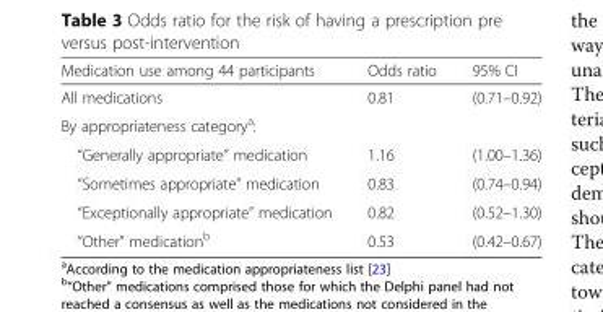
<table><thead><tr><td>Medication use among 44 participants</td><td>Odds ratio</td><td>95% CI</td></tr></thead><tbody><tr><td>All medications</td><td>0.81</td><td>(0.71–0.92)</td></tr><tr><td colspan="3">By appropriateness category<sup>a</sup>:</td></tr><tr><td>“Generally appropriate” medication</td><td>1.16</td><td>(1.00–1.36)</td></tr><tr><td>“Sometimes appropriate” medication</td><td>0.83</td><td>(0.74–0.94)</td></tr><tr><td>“Exceptionally appropriate” medication</td><td>0.82</td><td>(0.52–1.30)</td></tr><tr><td>“Other” medication<sup>b</sup></td><td>0.53</td><td>(0.42–0.67)</td></tr></tbody></table>